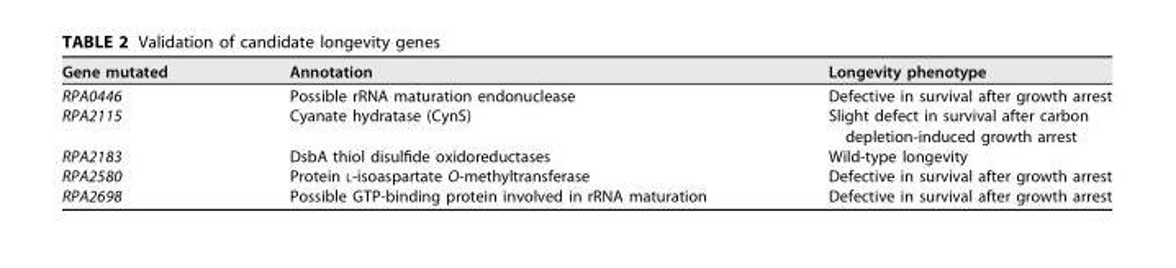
<table><thead><tr><td>Gene mutated</td><td>Annotation</td><td>Longevity phenotype</td></tr></thead><tbody><tr><td>RPA0446</td><td>Possible rRNA maturation endonuclease</td><td>Defective in survival after growth arrest</td></tr><tr><td>RPA2115</td><td>Cyanate hydratase (CynS)</td><td>Slight defect in survival after carbon depletion-induced growth arrest</td></tr><tr><td>RPA2183</td><td>DsbA thiol disulfide oxidoreductases</td><td>Wild-type longevity</td></tr><tr><td>RPA2580</td><td>Protein L-isoaspartate O-methyltransferase</td><td>Defective in survival after growth arrest</td></tr><tr><td>RPA2698</td><td>Possible GTP-binding protein involved in rRNA maturation</td><td>Defective in survival after growth arrest</td></tr></tbody></table>